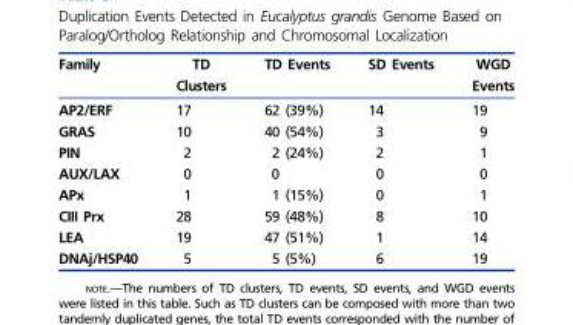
<table><thead><tr><td>Family</td><td>TD Clusters</td><td>TD Events</td><td>SD Events</td><td>WGD Events</td></tr></thead><tbody><tr><td>AP2/ERF</td><td>17</td><td>62 (39%)</td><td>14</td><td>19</td></tr><tr><td>GRAS</td><td>10</td><td>40 (54%)</td><td>3</td><td>9</td></tr><tr><td>PIN</td><td>2</td><td>2 (24%)</td><td>2</td><td>1</td></tr><tr><td>AUX/LAX</td><td>0</td><td>0</td><td>0</td><td>0</td></tr><tr><td>APx</td><td>1</td><td>1 (15%)</td><td>0</td><td>1</td></tr><tr><td>CIII Prx</td><td>28</td><td>59 (48%)</td><td>8</td><td>10</td></tr><tr><td>LEA</td><td>19</td><td>47 (51%)</td><td>1</td><td>14</td></tr><tr><td>DNAj/HSP40</td><td>5</td><td>5 (5%)</td><td>6</td><td>19</td></tr></tbody></table>